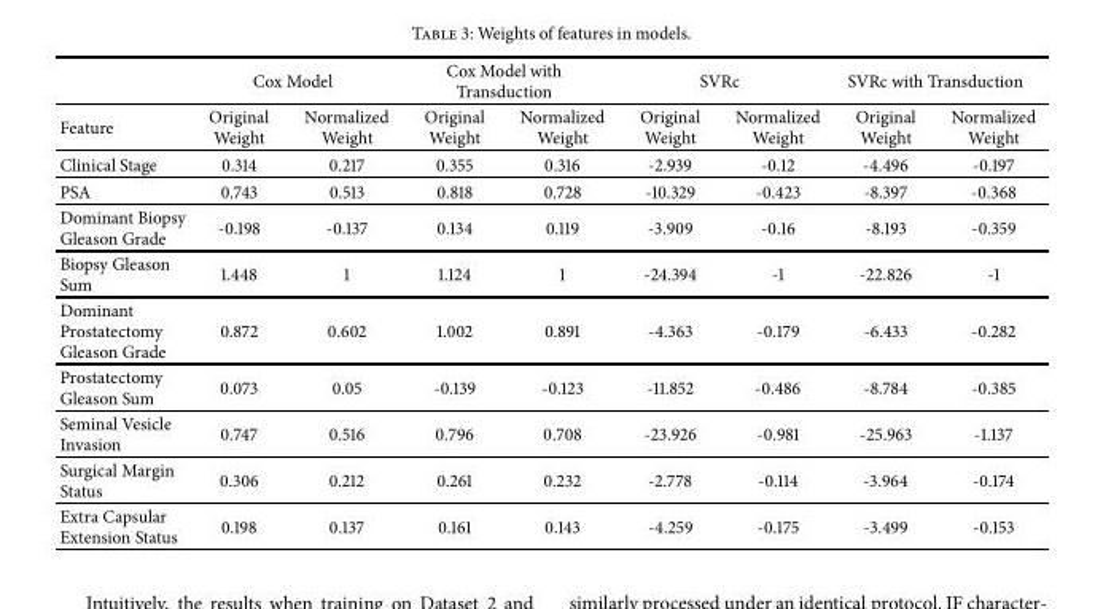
<table><thead><tr><td rowspan="2">Feature</td><td colspan="2">Cox Model</td><td colspan="2">Cox Model with Transduction</td><td colspan="2">SVRc</td><td colspan="2">SVRc with Transduction</td></tr><tr><td>Original Weight</td><td>Normalized Weight</td><td>Original Weight</td><td>Normalized Weight</td><td>Original Weight</td><td>Normalized Weight</td><td>Original Weight</td><td>Normalized Weight</td></tr></thead><tbody><tr><td>Clinical Stage</td><td>0.314</td><td>0.217</td><td>0.355</td><td>0.316</td><td>-2.939</td><td>-0.12</td><td>-4.496</td><td>-0.197</td></tr><tr><td>PSA</td><td>0.743</td><td>0.513</td><td>0.818</td><td>0.728</td><td>-10.329</td><td>-0.423</td><td>-8.397</td><td>-0.368</td></tr><tr><td>Dominant Biopsy Gleason Grade</td><td>-0.198</td><td>-0.137</td><td>0.134</td><td>0.119</td><td>-3.909</td><td>-0.16</td><td>-8.193</td><td>-0.359</td></tr><tr><td>Biopsy Gleason Sum</td><td>1.448</td><td>1</td><td>1.124</td><td>1</td><td>-24.394</td><td>-1</td><td>-22.826</td><td>-1</td></tr><tr><td>Dominant Prostatectomy Gleason Grade</td><td>0.872</td><td>0.602</td><td>1.002</td><td>0.891</td><td>-4.363</td><td>-0.179</td><td>-6.433</td><td>-0.282</td></tr><tr><td>Prostatectomy Gleason Sum</td><td>0.073</td><td>0.05</td><td>-0.139</td><td>-0.123</td><td>-11.852</td><td>-0.486</td><td>-8.784</td><td>-0.385</td></tr><tr><td>Seminal Vesicle Invasion</td><td>0.747</td><td>0.516</td><td>0.796</td><td>0.708</td><td>-23.926</td><td>-0.981</td><td>-25.963</td><td>-1.137</td></tr><tr><td>Surgical Margin Status</td><td>0.306</td><td>0.212</td><td>0.261</td><td>0.232</td><td>-2.778</td><td>-0.114</td><td>-3.964</td><td>-0.174</td></tr><tr><td>Extra Capsular Extension Status</td><td>0.198</td><td>0.137</td><td>0.161</td><td>0.143</td><td>-4.259</td><td>-0.175</td><td>-3.499</td><td>-0.153</td></tr></tbody></table>